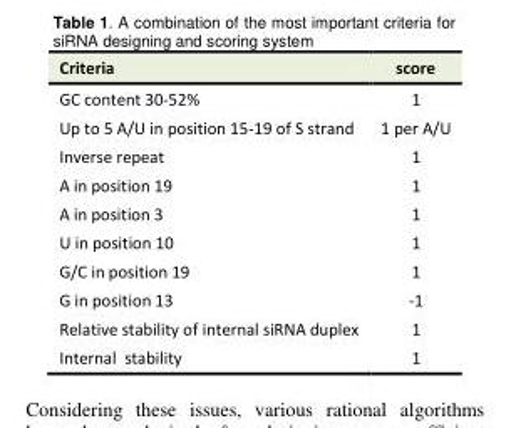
<table><tbody><tr><td>Criteria</td><td>score</td></tr><tr><td>GC content 30-52%</td><td>1</td></tr><tr><td>Up to 5 A/U in position 15-19 of S strand</td><td>1 per A/U</td></tr><tr><td>Inverse repeat</td><td>1</td></tr><tr><td>A in position 19</td><td>1</td></tr><tr><td>A in position 3</td><td>1</td></tr><tr><td>U in position 10</td><td>1</td></tr><tr><td>G/C in position 19</td><td>1</td></tr><tr><td>G in position 13</td><td>-1</td></tr><tr><td>Relative stability of internal siRNA duplex</td><td>1</td></tr><tr><td>Internal stability</td><td>1</td></tr></tbody></table>